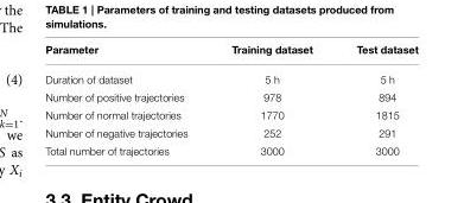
<table><thead><tr><td>Parameter</td><td>Training dataset</td><td>Test dataset</td></tr></thead><tbody><tr><td>Duration of dataset</td><td>5 h</td><td>5 h</td></tr><tr><td>Number of positive trajectories</td><td>978</td><td>894</td></tr><tr><td>Number of normal trajectories</td><td>1770</td><td>1815</td></tr><tr><td>Number of negative trajectories</td><td>252</td><td>291</td></tr><tr><td>Total number of trajectories</td><td>3000</td><td>3000</td></tr></tbody></table>